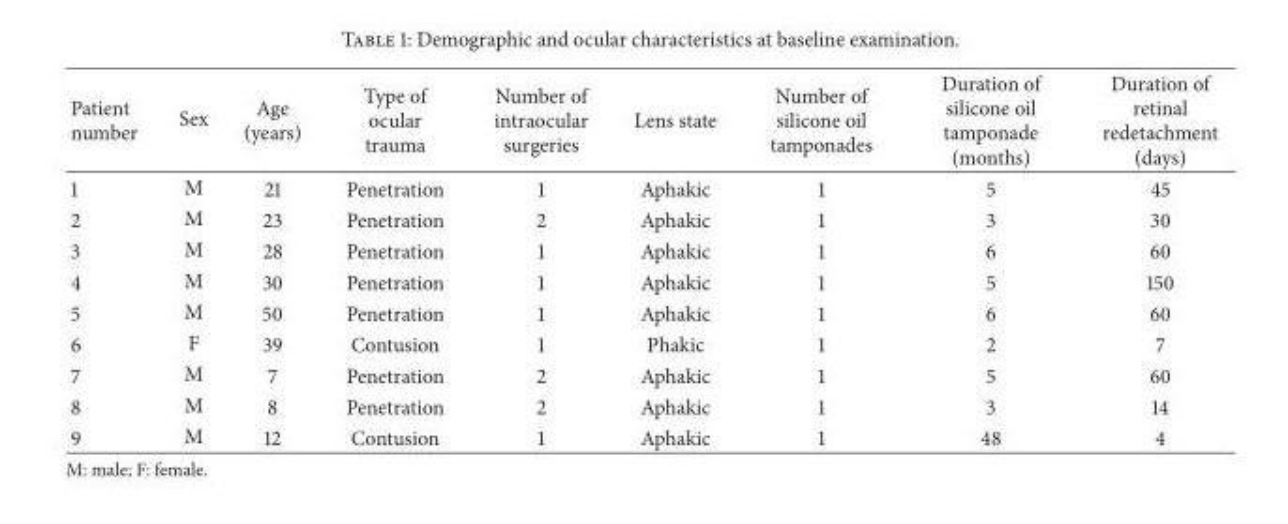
<table><thead><tr><td>Patient number</td><td>Sex</td><td>Age (years)</td><td>Type of ocular trauma</td><td>Number of intraocular surgeries</td><td>Lens state</td><td>Number of silicone oil tamponades</td><td>Duration of silicone oil tamponade (months)</td><td>Duration of retinal redetachment (days)</td></tr></thead><tbody><tr><td>1</td><td>M</td><td>21</td><td>Penetration</td><td>1</td><td>Aphakic</td><td>1</td><td>5</td><td>45</td></tr><tr><td>2</td><td>M</td><td>23</td><td>Penetration</td><td>2</td><td>Aphakic</td><td>1</td><td>3</td><td>30</td></tr><tr><td>3</td><td>M</td><td>28</td><td>Penetration</td><td>1</td><td>Aphakic</td><td>1</td><td>6</td><td>60</td></tr><tr><td>4</td><td>M</td><td>30</td><td>Penetration</td><td>1</td><td>Aphakic</td><td>1</td><td>5</td><td>150</td></tr><tr><td>5</td><td>M</td><td>50</td><td>Penetration</td><td>1</td><td>Aphakic</td><td>1</td><td>6</td><td>60</td></tr><tr><td>6</td><td>F</td><td>39</td><td>Contusion</td><td>1</td><td>Phakic</td><td>1</td><td>2</td><td>7</td></tr><tr><td>7</td><td>M</td><td>7</td><td>Penetration</td><td>2</td><td>Aphakic</td><td>1</td><td>5</td><td>60</td></tr><tr><td>8</td><td>M</td><td>8</td><td>Penetration</td><td>2</td><td>Aphakic</td><td>1</td><td>3</td><td>14</td></tr><tr><td>9</td><td>M</td><td>12</td><td>Contusion</td><td>1</td><td>Aphakic</td><td>1</td><td>48</td><td>4</td></tr></tbody></table>